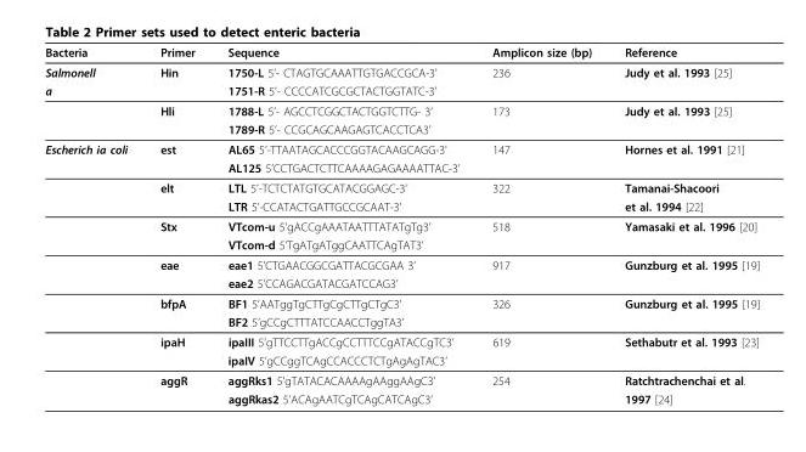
<table><thead><tr><td>Bacteria</td><td>Primer</td><td>Sequence</td><td>Amplicon size (bp)</td><td>Reference</td></tr></thead><tbody><tr><td>Salmonell</td><td>Hin</td><td>1750-L 5’- CTAGTGCAAATTGTGACCGCA-3’</td><td>236</td><td>Judy et al. 1993 [25]</td></tr><tr><td rowspan="3">a</td><td></td><td>1751-R 5’- CCCCATCGCGCTACTGGTATC-3’</td><td></td><td></td></tr><tr><td>Hli</td><td>1788-L 5’- AGCCTCGGCTACTGGTCTTG- 3’</td><td>173</td><td>Judy et al. 1993 [25]</td></tr><tr><td></td><td>1789-R 5’- CCGCAGCAAGAGTCACCTCA3’</td><td></td><td></td></tr><tr><td rowspan="14">Escherich ia coli</td><td>est</td><td>AL65 5’-TTAATAGCACCCGGTACAAGCAGG-3’</td><td>147</td><td>Hornes et al. 1991 [21]</td></tr><tr><td></td><td>AL125 5’CCTGACTCTTCAAAAGAGAAAATTAC-3’</td><td></td><td></td></tr><tr><td>elt</td><td>LTL 5’-TCTCTATGTGCATACGGAGC-3’</td><td>322</td><td>Tamanai-Shacoori</td></tr><tr><td></td><td>LTR 5’-CCATACTGATTGCCGCAAT-3’</td><td></td><td>et al. 1994 [22]</td></tr><tr><td>Stx</td><td>VTcom-u 5’gACCgAAATAATTTATATgTg3’</td><td>518</td><td>Yamasaki et al. 1996 [20]</td></tr><tr><td></td><td>VTcom-d 5’TgATgATggCAATTCAgTAT3’</td><td></td><td></td></tr><tr><td>eae</td><td>eae1 5’CTGAACGGCGATTACGCGAA 3’</td><td>917</td><td>Gunzburg et al. 1995 [19]</td></tr><tr><td></td><td>eae2 5’CCAGACGATACGATCCAG3’</td><td></td><td></td></tr><tr><td>bfpA</td><td>BF1 5’AATggTgCTTgCgCTTgCTgC3’</td><td>326</td><td>Gunzburg et al. 1995 [19]</td></tr><tr><td></td><td>BF2 5’gCCgCTTTATCCAACCTggTA3’</td><td></td><td></td></tr><tr><td>ipaH</td><td>ipaIII 5’gTTCCTTgACCgCCTTTCCgATACCgTC3’</td><td>619</td><td>Sethabutr et al. 1993 [23]</td></tr><tr><td></td><td>ipaIV 5’gCCggTCAgCCACCCTCTgAgAgTAC3’</td><td></td><td></td></tr><tr><td>aggR</td><td>aggRks1 5’gTATACACAAAAgAAggAAgC3’</td><td>254</td><td>Ratchtrachenchai et al.</td></tr><tr><td></td><td>aggRkas2 5’ACAgAATCgTCAgCATCAgC3’</td><td></td><td>1997 [24]</td></tr></tbody></table>